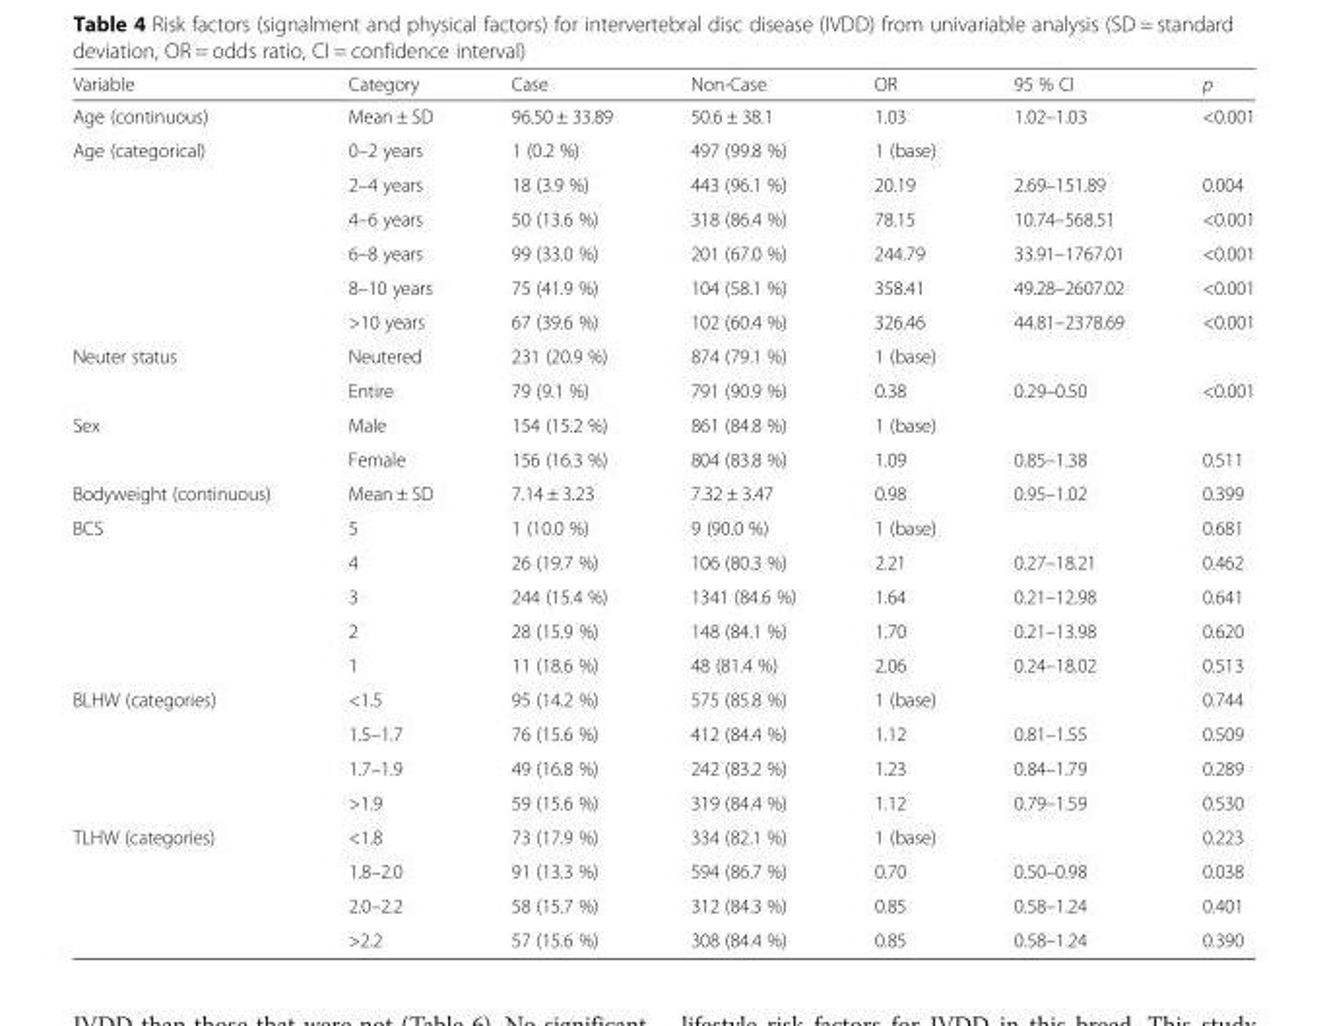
<table><thead><tr><td>Variable</td><td>Category</td><td>Case</td><td>Non-Case</td><td>OR</td><td>95 % CI</td><td>p</td></tr></thead><tbody><tr><td>Age (continuous)</td><td>Mean ± SD</td><td>96.50 ± 33.89</td><td>50.6 ± 38.1</td><td>1.03</td><td>1.02–1.03</td><td>&lt;0.001</td></tr><tr><td rowspan="6">Age (categorical)</td><td>0–2 years</td><td>1 (0.2 %)</td><td>497 (99.8 %)</td><td>1 (base)</td><td></td><td></td></tr><tr><td>2–4 years</td><td>18 (3.9 %)</td><td>443 (96.1 %)</td><td>20.19</td><td>2.69–151.89</td><td>0.004</td></tr><tr><td>4–6 years</td><td>50 (13.6 %)</td><td>318 (86.4 %)</td><td>78.15</td><td>10.74–568.51</td><td>&lt;0.001</td></tr><tr><td>6–8 years</td><td>99 (33.0 %)</td><td>201 (67.0 %)</td><td>244.79</td><td>33.91–1767.01</td><td>&lt;0.001</td></tr><tr><td>8–10 years</td><td>75 (41.9 %)</td><td>104 (58.1 %)</td><td>358.41</td><td>49.28–2607.02</td><td>&lt;0.001</td></tr><tr><td>&gt;10 years</td><td>67 (39.6 %)</td><td>102 (60.4 %)</td><td>326.46</td><td>44.81–2378.69</td><td>&lt;0.001</td></tr><tr><td rowspan="2">Neuter status</td><td>Neutered</td><td>231 (20.9 %)</td><td>874 (79.1 %)</td><td>1 (base)</td><td></td><td></td></tr><tr><td>Entire</td><td>79 (9.1 %)</td><td>791 (90.9 %)</td><td>0.38</td><td>0.29–0.50</td><td>&lt;0.001</td></tr><tr><td rowspan="2">Sex</td><td>Male</td><td>154 (15.2 %)</td><td>861 (84.8 %)</td><td>1 (base)</td><td></td><td></td></tr><tr><td>Female</td><td>156 (16.3 %)</td><td>804 (83.8 %)</td><td>1.09</td><td>0.85–1.38</td><td>0.511</td></tr><tr><td>Bodyweight (continuous)</td><td>Mean ± SD</td><td>7.14 ± 3.23</td><td>7.32 ± 3.47</td><td>0.98</td><td>0.95–1.02</td><td>0.399</td></tr><tr><td rowspan="5">BCS</td><td>5</td><td>1 (10.0 %)</td><td>9 (90.0 %)</td><td>1 (base)</td><td></td><td>0.681</td></tr><tr><td>4</td><td>26 (19.7 %)</td><td>106 (80.3 %)</td><td>2.21</td><td>0.27–18.21</td><td>0.462</td></tr><tr><td>3</td><td>244 (15.4 %)</td><td>1341 (84.6 %)</td><td>1.64</td><td>0.21–12.98</td><td>0.641</td></tr><tr><td>2</td><td>28 (15.9 %)</td><td>148 (84.1 %)</td><td>1.70</td><td>0.21–13.98</td><td>0.620</td></tr><tr><td>1</td><td>11 (18.6 %)</td><td>48 (81.4 %)</td><td>2.06</td><td>0.24–18.02</td><td>0.513</td></tr><tr><td rowspan="4">BLHW (categories)</td><td>&lt;1.5</td><td>95 (14.2 %)</td><td>575 (85.8 %)</td><td>1 (base)</td><td></td><td>0.744</td></tr><tr><td>1.5–1.7</td><td>76 (15.6 %)</td><td>412 (84.4 %)</td><td>1.12</td><td>0.81–1.55</td><td>0.509</td></tr><tr><td>1.7–1.9</td><td>49 (16.8 %)</td><td>242 (83.2 %)</td><td>1.23</td><td>0.84–1.79</td><td>0.289</td></tr><tr><td>&gt;1.9</td><td>59 (15.6 %)</td><td>319 (84.4 %)</td><td>1.12</td><td>0.79–1.59</td><td>0.530</td></tr><tr><td rowspan="4">TLHW (categories)</td><td>&lt;1.8</td><td>73 (17.9 %)</td><td>334 (82.1 %)</td><td>1 (base)</td><td></td><td>0.223</td></tr><tr><td>1.8–2.0</td><td>91 (13.3 %)</td><td>594 (86.7 %)</td><td>0.70</td><td>0.50–0.98</td><td>0.038</td></tr><tr><td>2.0–2.2</td><td>58 (15.7 %)</td><td>312 (84.3 %)</td><td>0.85</td><td>0.58–1.24</td><td>0.401</td></tr><tr><td>&gt;2.2</td><td>57 (15.6 %)</td><td>308 (84.4 %)</td><td>0.85</td><td>0.58–1.24</td><td>0.390</td></tr></tbody></table>